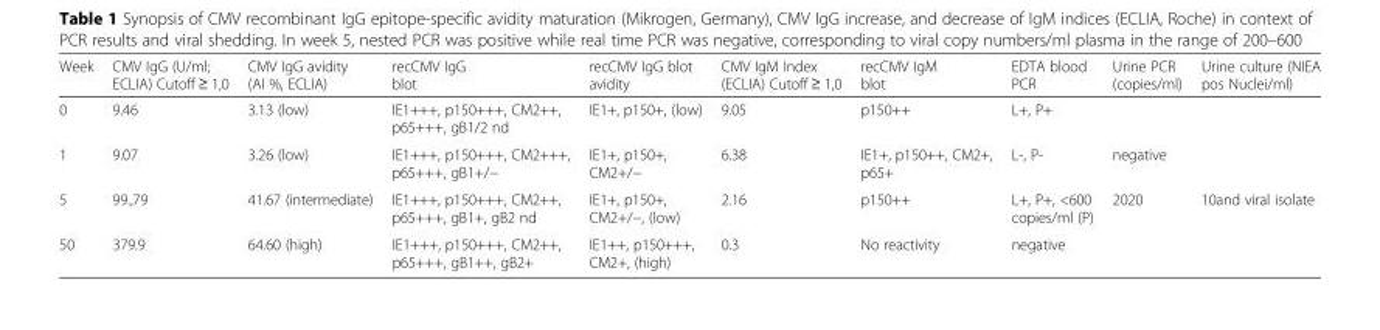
<table><thead><tr><td>Week</td><td>CMV IgG (U/ml; ECLIA) Cutoff ≥ 1,0</td><td>CMV IgG avidity (AI %, ECLIA)</td><td>recCMV IgG blot</td><td>recCMV IgG blot avidity</td><td>CMV IgM Index (ECLIA) Cutoff ≥ 1,0</td><td>recCMV IgM blot</td><td>EDTA blood PCR</td><td>Urine PCR (copies/ml)</td><td>Urine culture (NIEA pos Nuclei/ml)</td></tr></thead><tbody><tr><td>0</td><td>9.46</td><td>3.13 (low)</td><td>IE1+++, p150+++, CM2++, p65+++, gB1/2 nd</td><td>IE1+, p150+, (low)</td><td>9.05</td><td>p150++</td><td>L+, P+</td><td></td><td></td></tr><tr><td>1</td><td>9.07</td><td>3.26 (low)</td><td>IE1+++, p150+++, CM2+++, p65+++, gB1+/−</td><td>IE1+, p150+, CM2+/−</td><td>6.38</td><td>IE1+, p150++, CM2+, p65+</td><td>L-, P-</td><td>negative</td><td></td></tr><tr><td>5</td><td>99.,79</td><td>41.67 (intermediate)</td><td>IE1+++, p150+++, CM2++, p65+++, gB1+, gB2 nd</td><td>IE1+, p150+, CM2+/−, (low)</td><td>2.16</td><td>p150++</td><td>L+, P+, &lt;600 copies/ml (P)</td><td>2020</td><td>10and viral isolate</td></tr><tr><td>50</td><td>379.9</td><td>64.60 (high)</td><td>IE1+++, p150+++, CM2++, p65+++, gB1++, gB2+</td><td>IE1++, p150+++, CM2+, (high)</td><td>0.3</td><td>No reactivity</td><td>negative</td><td></td><td></td></tr></tbody></table>